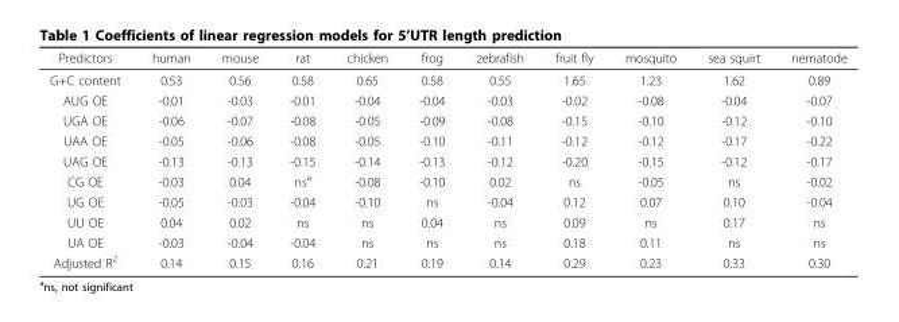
<table><thead><tr><td>Predictors</td><td>human</td><td>mouse</td><td>rat</td><td>chicken</td><td>frog</td><td>zebrafish</td><td>fruit fly</td><td>mosquito</td><td>sea squirt</td><td>nematode</td></tr></thead><tbody><tr><td>G+C content</td><td>0.53</td><td>0.56</td><td>0.58</td><td>0.65</td><td>0.58</td><td>0.55</td><td>1.65</td><td>1.23</td><td>1.62</td><td>0.89</td></tr><tr><td>AUG OE</td><td>-0.01</td><td>-0.03</td><td>-0.01</td><td>-0.04</td><td>-0.04</td><td>-0.03</td><td>-0.02</td><td>-0.08</td><td>-0.04</td><td>-0.07</td></tr><tr><td>UGA OE</td><td>-0.06</td><td>-0.07</td><td>-0.08</td><td>-0.05</td><td>-0.09</td><td>-0.08</td><td>-0.15</td><td>-0.10</td><td>-0.12</td><td>-0.10</td></tr><tr><td>UAA OE</td><td>-0.05</td><td>-0.06</td><td>-0.08</td><td>-0.05</td><td>-0.10</td><td>-0.11</td><td>-0.12</td><td>-0.12</td><td>-0.17</td><td>-0.22</td></tr><tr><td>UAG OE</td><td>-0.13</td><td>-0.13</td><td>-0.15</td><td>-0.14</td><td>-0.13</td><td>-0.12</td><td>-0.20</td><td>-0.15</td><td>-0.12</td><td>-0.17</td></tr><tr><td>CG OE</td><td>-0.03</td><td>0.04</td><td>ns<sup>a</sup></td><td>-0.08</td><td>-0.10</td><td>0.02</td><td>ns</td><td>-0.05</td><td>ns</td><td>-0.02</td></tr><tr><td>UG OE</td><td>-0.05</td><td>-0.03</td><td>-0.04</td><td>-0.10</td><td>ns</td><td>-0.04</td><td>0.12</td><td>0.07</td><td>0.10</td><td>-0.04</td></tr><tr><td>UU OE</td><td>0.04</td><td>0.02</td><td>ns</td><td>ns</td><td>0.04</td><td>ns</td><td>0.09</td><td>ns</td><td>0.17</td><td>ns</td></tr><tr><td>UA OE</td><td>-0.03</td><td>-0.04</td><td>-0.04</td><td>ns</td><td>ns</td><td>ns</td><td>0.18</td><td>0.11</td><td>ns</td><td>ns</td></tr><tr><td>Adjusted R<sup>2</sup></td><td>0.14</td><td>0.15</td><td>0.16</td><td>0.21</td><td>0.19</td><td>0.14</td><td>0.29</td><td>0.23</td><td>0.33</td><td>0.30</td></tr></tbody></table>